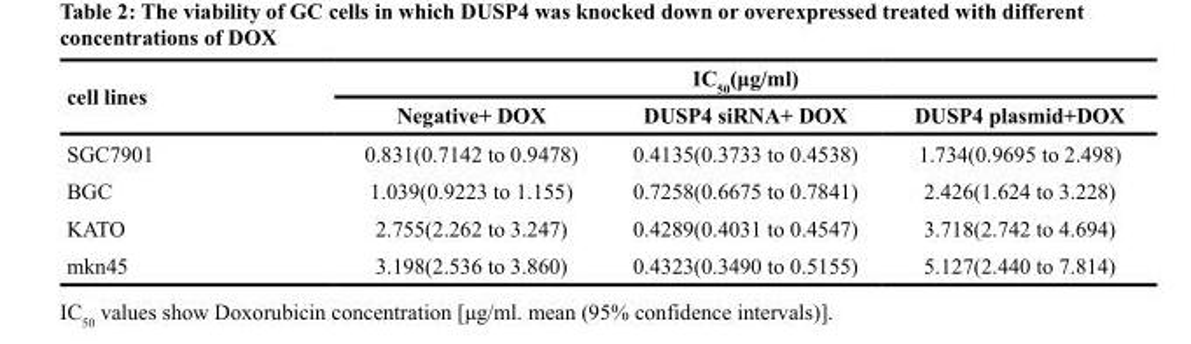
<table><thead><tr><td rowspan="2">cell lines</td><td colspan="3">IC<sub>50</sub>(μg/ml)</td></tr><tr><td>Negative+ DOX</td><td>DUSP4 siRNA+ DOX</td><td>DUSP4 plasmid+DOX</td></tr></thead><tbody><tr><td>SGC7901</td><td>0.831(0.7142 to 0.9478)</td><td>0.4135(0.3733 to 0.4538)</td><td>1.734(0.9695 to 2.498)</td></tr><tr><td>BGC</td><td>1.039(0.9223 to 1.155)</td><td>0.7258(0.6675 to 0.7841)</td><td>2.426(1.624 to 3.228)</td></tr><tr><td>KATO</td><td>2.755(2.262 to 3.247)</td><td>0.4289(0.4031 to 0.4547)</td><td>3.718(2.742 to 4.694)</td></tr><tr><td>mkn45</td><td>3.198(2.536 to 3.860)</td><td>0.4323(0.3490 to 0.5155)</td><td>5.127(2.440 to 7.814)</td></tr></tbody></table>